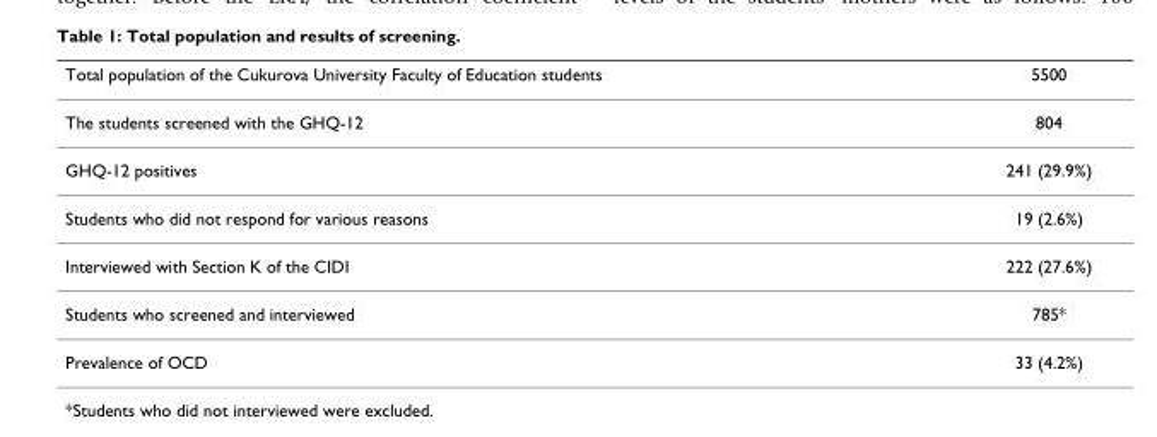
<table><thead><tr><td>Total population of the Cukurova University Faculty of Education students</td><td>5500</td></tr></thead><tbody><tr><td>The students screened with the GHQ-12</td><td>804</td></tr><tr><td>GHQ-12 positives</td><td>241 (29.9%)</td></tr><tr><td>Students who did not respond for various reasons</td><td>19 (2.6%)</td></tr><tr><td>Interviewed with Section K of the CIDI</td><td>222 (27.6%)</td></tr><tr><td>Students who screened and interviewed</td><td>785*</td></tr><tr><td>Prevalence of OCD</td><td>33 (4.2%)</td></tr></tbody></table>